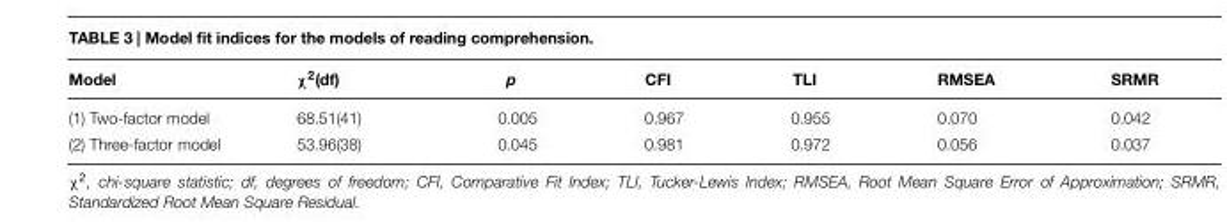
<table><thead><tr><td>Model</td><td>χ<sup>2</sup>(df)</td><td>p</td><td>CFI</td><td>TLI</td><td>RMSEA</td><td>SRMR</td></tr></thead><tbody><tr><td>(1) Two-factor model</td><td>68.51(41)</td><td>0.005</td><td>0.967</td><td>0.955</td><td>0.070</td><td>0.042</td></tr><tr><td>(2) Three-factor model</td><td>53.96(38)</td><td>0.045</td><td>0.981</td><td>0.972</td><td>0.056</td><td>0.037</td></tr></tbody></table>